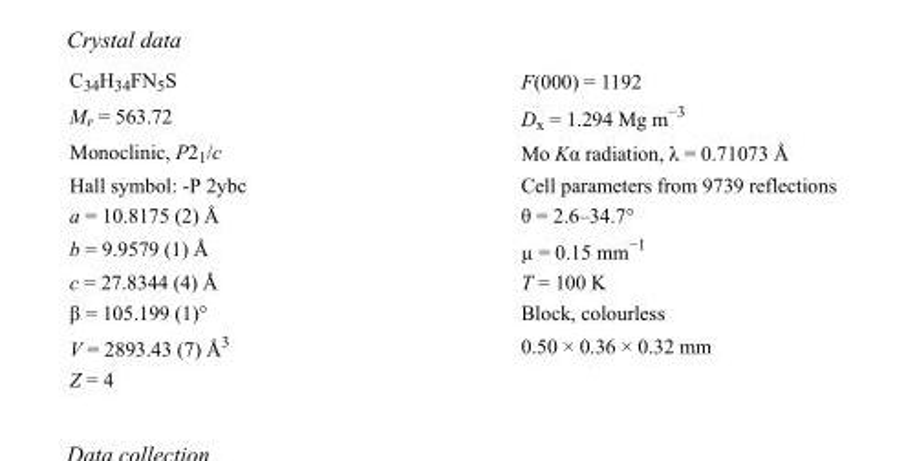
<table><tbody><tr><td>C<sub>34</sub>H<sub>34</sub>FN<sub>5</sub>S</td><td>F(000) = 1192</td></tr><tr><td>M<sub>r</sub> = 563.72</td><td>D<sub>x</sub> = 1.294 Mg m<sup>−3</sup></td></tr><tr><td>Monoclinic, P2<sub>1</sub>/c</td><td>Mo Kα radiation, λ = 0.71073 Å</td></tr><tr><td>Hall symbol: -P 2ybc</td><td>Cell parameters from 9739 reflections</td></tr><tr><td>a = 10.8175 (2) Å</td><td>θ = 2.6–34.7°</td></tr><tr><td>b = 9.9579 (1) Å</td><td>µ = 0.15 mm<sup>−1</sup></td></tr><tr><td>c = 27.8344 (4) Å</td><td>T = 100 K</td></tr><tr><td>β = 105.199 (1)°</td><td>Block, colourless</td></tr><tr><td>V = 2893.43 (7) Å<sup>3</sup></td><td>0.50 × 0.36 × 0.32 mm</td></tr><tr><td>Z = 4</td><td></td></tr></tbody></table>